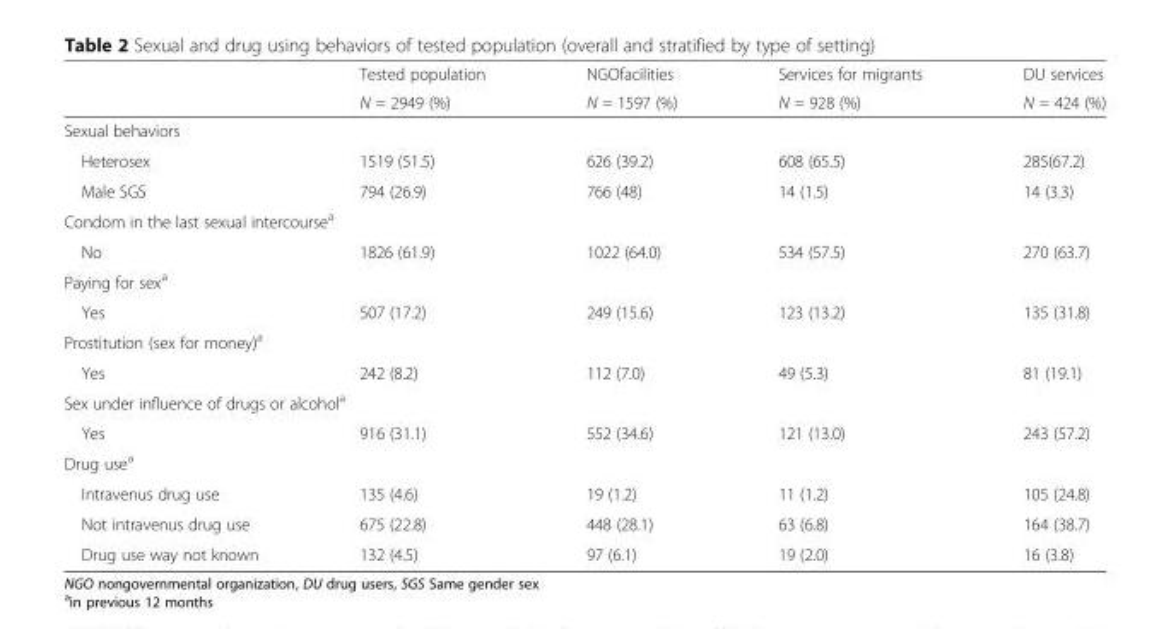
<table><thead><tr><td rowspan="2"></td><td rowspan="2">Tested population N = 2949 (%)</td><td rowspan="2">NGOfacilities N = 1597 (%)</td><td rowspan="2">Services for migrants N = 928 (%)</td><td rowspan="2">DU services N = 424 (%)</td></tr><tr></tr></thead><tbody><tr><td colspan="5">Sexual behaviors</td></tr><tr><td>Heterosex</td><td>1519 (51.5)</td><td>626 (39.2)</td><td>608 (65.5)</td><td>285(67.2)</td></tr><tr><td>Male SGS</td><td>794 (26.9)</td><td>766 (48)</td><td>14 (1.5)</td><td>14 (3.3)</td></tr><tr><td colspan="5">Condom in the last sexual intercourse<sup>a</sup></td></tr><tr><td>No</td><td>1826 (61.9)</td><td>1022 (64.0)</td><td>534 (57.5)</td><td>270 (63.7)</td></tr><tr><td colspan="5">Paying for sex<sup>a</sup></td></tr><tr><td>Yes</td><td>507 (17.2)</td><td>249 (15.6)</td><td>123 (13.2)</td><td>135 (31.8)</td></tr><tr><td colspan="5">Prostitution (sex for money)<sup>a</sup></td></tr><tr><td>Yes</td><td>242 (8.2)</td><td>112 (7.0)</td><td>49 (5.3)</td><td>81 (19.1)</td></tr><tr><td colspan="5">Sex under influence of drugs or alcohol<sup>a</sup></td></tr><tr><td>Yes</td><td>916 (31.1)</td><td>552 (34.6)</td><td>121 (13.0)</td><td>243 (57.2)</td></tr><tr><td colspan="5">Drug use<sup>a</sup></td></tr><tr><td>Intravenus drug use</td><td>135 (4.6)</td><td>19 (1.2)</td><td>11 (1.2)</td><td>105 (24.8)</td></tr><tr><td>Not intravenus drug use</td><td>675 (22.8)</td><td>448 (28.1)</td><td>63 (6.8)</td><td>164 (38.7)</td></tr><tr><td>Drug use way not known</td><td>132 (4.5)</td><td>97 (6.1)</td><td>19 (2.0)</td><td>16 (3.8)</td></tr></tbody></table>